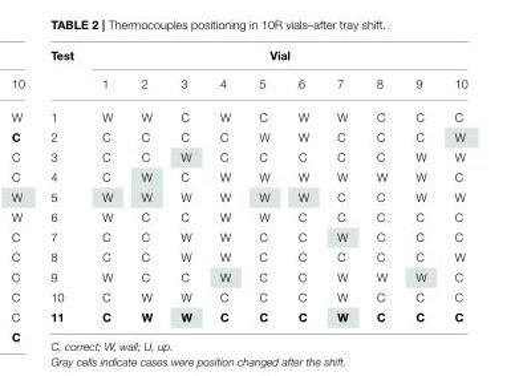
<table><thead><tr><td rowspan="2">Test</td><td colspan="10">Vial</td></tr><tr><td>1</td><td>2</td><td>3</td><td>4</td><td>5</td><td>6</td><td>7</td><td>8</td><td>9</td><td>10</td></tr></thead><tbody><tr><td>1</td><td>W</td><td>W</td><td>C</td><td>W</td><td>C</td><td>W</td><td>W</td><td>C</td><td>C</td><td>C</td></tr><tr><td>2</td><td>C</td><td>C</td><td>C</td><td>C</td><td>W</td><td>W</td><td>C</td><td>C</td><td>C</td><td>W</td></tr><tr><td>3</td><td>C</td><td>C</td><td>W</td><td>C</td><td>C</td><td>C</td><td>C</td><td>C</td><td>W</td><td>W</td></tr><tr><td>4</td><td>C</td><td>W</td><td>C</td><td>W</td><td>W</td><td>W</td><td>W</td><td>W</td><td>W</td><td>C</td></tr><tr><td>5</td><td>W</td><td>W</td><td>W</td><td>W</td><td>W</td><td>W</td><td>C</td><td>C</td><td>W</td><td>W</td></tr><tr><td>6</td><td>W</td><td>C</td><td>C</td><td>W</td><td>W</td><td>C</td><td>C</td><td>C</td><td>C</td><td>C</td></tr><tr><td>7</td><td>C</td><td>C</td><td>W</td><td>W</td><td>C</td><td>C</td><td>W</td><td>C</td><td>C</td><td>C</td></tr><tr><td>8</td><td>C</td><td>C</td><td>W</td><td>W</td><td>C</td><td>C</td><td>C</td><td>C</td><td>C</td><td>W</td></tr><tr><td>9</td><td>W</td><td>C</td><td>C</td><td>W</td><td>C</td><td>C</td><td>W</td><td>W</td><td>W</td><td>C</td></tr><tr><td>10</td><td>C</td><td>W</td><td>W</td><td>C</td><td>C</td><td>C</td><td>W</td><td>C</td><td>C</td><td>C</td></tr><tr><td>11</td><td>C</td><td>W</td><td>W</td><td>C</td><td>C</td><td>C</td><td>W</td><td>C</td><td>C</td><td>C</td></tr></tbody></table>